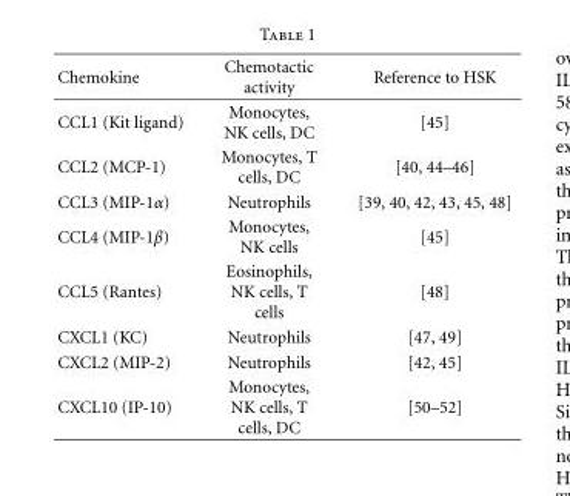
<table><thead><tr><td>Chemokine</td><td>Chemotactic activity</td><td>Reference to HSK</td></tr></thead><tbody><tr><td>CCL1 (Kit ligand)</td><td>Monocytes, NK cells, DC</td><td>[45]</td></tr><tr><td>CCL2 (MCP-1)</td><td>Monocytes, T cells, DC</td><td>[40, 44–46]</td></tr><tr><td>CCL3 (MIP-1α)</td><td>Neutrophils</td><td>[39, 40, 42, 43, 45, 48]</td></tr><tr><td>CCL4 (MIP-1β)</td><td>Monocytes, NK cells</td><td>[45]</td></tr><tr><td>CCL5 (Rantes)</td><td>Eosinophils, NK cells, T cells</td><td>[48]</td></tr><tr><td>CXCL1 (KC)</td><td>Neutrophils</td><td>[47, 49]</td></tr><tr><td>CXCL2 (MIP-2)</td><td>Neutrophils</td><td>[42, 45]</td></tr><tr><td>CXCL10 (IP-10)</td><td>Monocytes, NK cells, T cells, DC</td><td>[50–52]</td></tr></tbody></table>